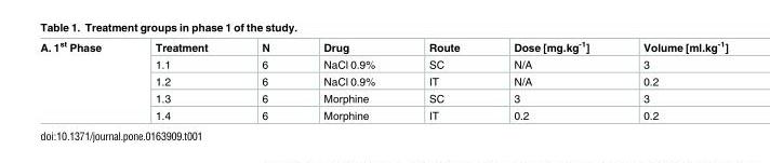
<table><tbody><tr><td rowspan="5">A. 1<sup>st</sup> Phase</td><td>Treatment</td><td>N</td><td>Drug</td><td>Route</td><td>Dose [mg.kg<sup>-1</sup>]</td><td>Volume [ml.kg<sup>-1</sup>]</td></tr><tr><td>1.1</td><td>6</td><td>NaCl 0.9%</td><td>SC</td><td>N/A</td><td>3</td></tr><tr><td>1.2</td><td>6</td><td>NaCl 0.9%</td><td>IT</td><td>N/A</td><td>0.2</td></tr><tr><td>1.3</td><td>6</td><td>Morphine</td><td>SC</td><td>3</td><td>3</td></tr><tr><td>1.4</td><td>6</td><td>Morphine</td><td>IT</td><td>0.2</td><td>0.2</td></tr></tbody></table>